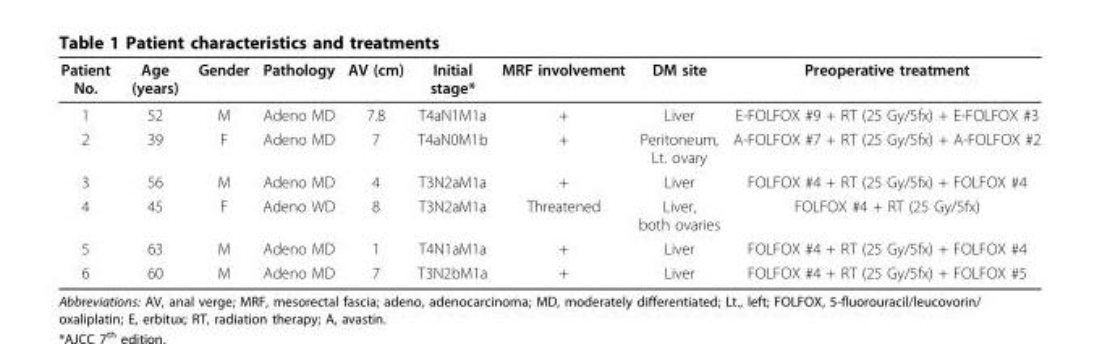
<table><thead><tr><td>Patient No.</td><td>Age (years)</td><td>Gender</td><td>Pathology</td><td>AV (cm)</td><td>Initial stage*</td><td>MRF involvement</td><td>DM site</td><td>Preoperative treatment</td></tr></thead><tbody><tr><td>1</td><td>52</td><td>M</td><td>Adeno MD</td><td>7.8</td><td>T4aN1M1a</td><td>+</td><td>Liver</td><td>E-FOLFOX #9 + RT (25 Gy/5fx) + E-FOLFOX #3</td></tr><tr><td>2</td><td>39</td><td>F</td><td>Adeno MD</td><td>7</td><td>T4aN0M1b</td><td>+</td><td>Peritoneum, Lt. ovary</td><td>A-FOLFOX #7 + RT (25 Gy/5fx) + A-FOLFOX #2</td></tr><tr><td>3</td><td>56</td><td>M</td><td>Adeno MD</td><td>4</td><td>T3N2aM1a</td><td>+</td><td>Liver</td><td>FOLFOX #4 + RT (25 Gy/5fx) + FOLFOX #4</td></tr><tr><td>4</td><td>45</td><td>F</td><td>Adeno WD</td><td>8</td><td>T3N2aM1a</td><td>Threatened</td><td>Liver, both ovaries</td><td>FOLFOX #4 + RT (25 Gy/5fx)</td></tr><tr><td>5</td><td>63</td><td>M</td><td>Adeno MD</td><td>1</td><td>T4N1aM1a</td><td>+</td><td>Liver</td><td>FOLFOX #4 + RT (25 Gy/5fx) + FOLFOX #4</td></tr><tr><td>6</td><td>60</td><td>M</td><td>Adeno MD</td><td>7</td><td>T3N2bM1a</td><td>+</td><td>Liver</td><td>FOLFOX #4 + RT (25 Gy/5fx) + FOLFOX #5</td></tr></tbody></table>